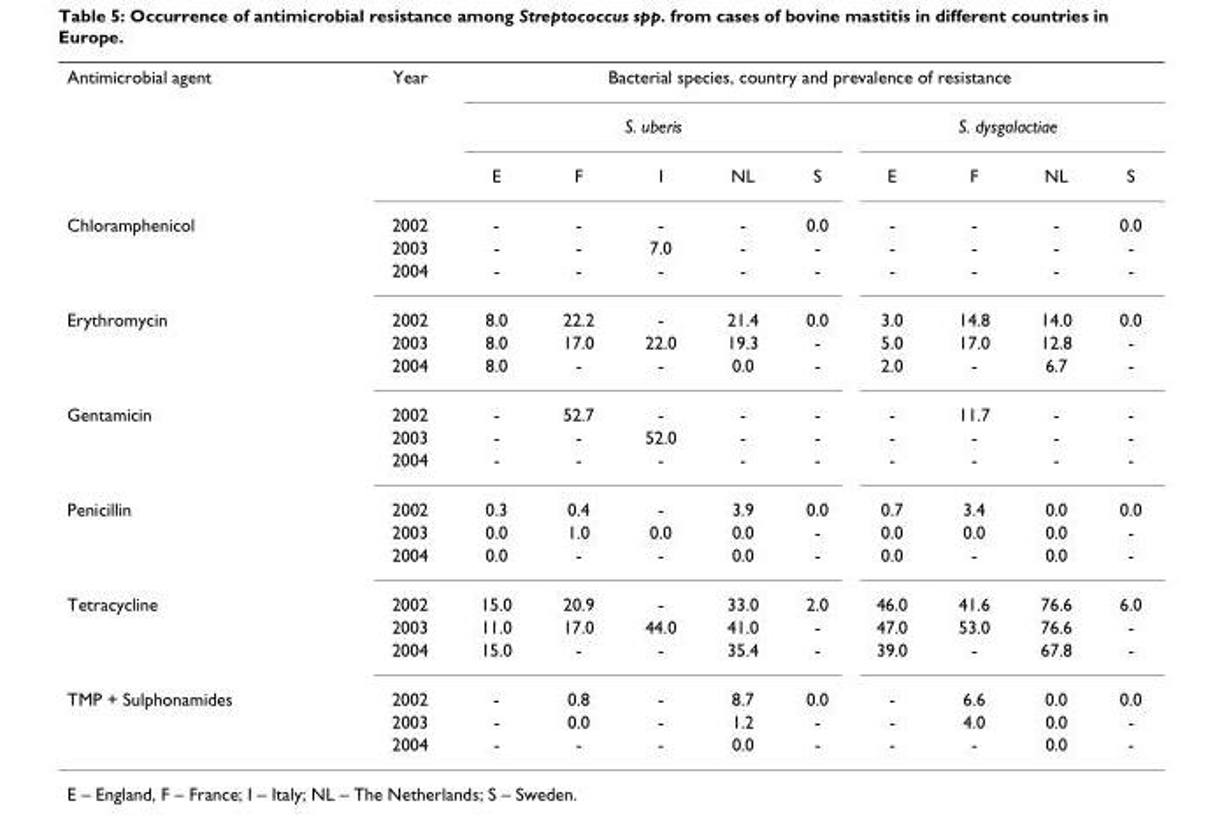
<table><tbody><tr><td rowspan="3">Antimicrobial agent</td><td>Year</td><td colspan="9">Bacterial species, country and prevalence of resistance</td></tr><tr><td></td><td colspan="5">S. uberis</td><td colspan="4">S. dysgalactiae</td></tr><tr><td></td><td>E</td><td>F</td><td>I</td><td>NL</td><td>S</td><td>E</td><td>F</td><td>NL</td><td>S</td></tr><tr><td rowspan="3">Chloramphenicol</td><td>2002</td><td>-</td><td>-</td><td>-</td><td>-</td><td>0.0</td><td>-</td><td>-</td><td>-</td><td>0.0</td></tr><tr><td>2003</td><td>-</td><td>-</td><td>7.0</td><td>-</td><td>-</td><td>-</td><td>-</td><td>-</td><td>-</td></tr><tr><td>2004</td><td>-</td><td>-</td><td>-</td><td>-</td><td>-</td><td>-</td><td>-</td><td>-</td><td>-</td></tr><tr><td rowspan="3">Erythromycin</td><td>2002</td><td>8.0</td><td>22.2</td><td>-</td><td>21.4</td><td>0.0</td><td>3.0</td><td>14.8</td><td>14.0</td><td>0.0</td></tr><tr><td>2003</td><td>8.0</td><td>17.0</td><td>22.0</td><td>19.3</td><td>-</td><td>5.0</td><td>17.0</td><td>12.8</td><td>-</td></tr><tr><td>2004</td><td>8.0</td><td>-</td><td>-</td><td>0.0</td><td>-</td><td>2.0</td><td>-</td><td>6.7</td><td>-</td></tr><tr><td rowspan="3">Gentamicin</td><td>2002</td><td>-</td><td>52.7</td><td>-</td><td>-</td><td>-</td><td>-</td><td>11.7</td><td>-</td><td>-</td></tr><tr><td>2003</td><td>-</td><td>-</td><td>52.0</td><td>-</td><td>-</td><td>-</td><td>-</td><td>-</td><td>-</td></tr><tr><td>2004</td><td>-</td><td>-</td><td>-</td><td>-</td><td>-</td><td>-</td><td>-</td><td>-</td><td>-</td></tr><tr><td rowspan="3">Penicillin</td><td>2002</td><td>0.3</td><td>0.4</td><td>-</td><td>3.9</td><td>0.0</td><td>0.7</td><td>3.4</td><td>0.0</td><td>0.0</td></tr><tr><td>2003</td><td>0.0</td><td>1.0</td><td>0.0</td><td>0.0</td><td>-</td><td>0.0</td><td>0.0</td><td>0.0</td><td>-</td></tr><tr><td>2004</td><td>0.0</td><td>-</td><td>-</td><td>0.0</td><td>-</td><td>0.0</td><td>-</td><td>0.0</td><td>-</td></tr><tr><td rowspan="3">Tetracycline</td><td>2002</td><td>15.0</td><td>20.9</td><td>-</td><td>33.0</td><td>2.0</td><td>46.0</td><td>41.6</td><td>76.6</td><td>6.0</td></tr><tr><td>2003</td><td>11.0</td><td>17.0</td><td>44.0</td><td>41.0</td><td>-</td><td>47.0</td><td>53.0</td><td>76.6</td><td>-</td></tr><tr><td>2004</td><td>15.0</td><td>-</td><td>-</td><td>35.4</td><td>-</td><td>39.0</td><td>-</td><td>67.8</td><td>-</td></tr><tr><td rowspan="3">TMP + Sulphonamides</td><td>2002</td><td>-</td><td>0.8</td><td>-</td><td>8.7</td><td>0.0</td><td>-</td><td>6.6</td><td>0.0</td><td>0.0</td></tr><tr><td>2003</td><td>-</td><td>0.0</td><td>-</td><td>1.2</td><td>-</td><td>-</td><td>4.0</td><td>0.0</td><td>-</td></tr><tr><td>2004</td><td>-</td><td>-</td><td>-</td><td>0.0</td><td>-</td><td>-</td><td>-</td><td>0.0</td><td>-</td></tr></tbody></table>